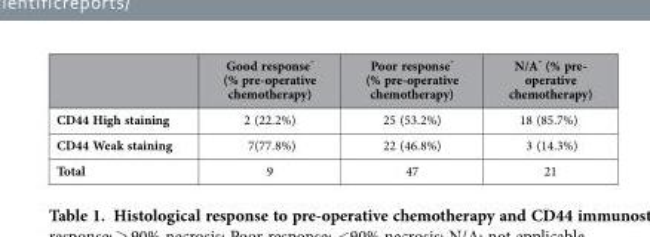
<table><thead><tr><td></td><td>Good response* (% pre-operative chemotherapy)</td><td>Poor response* (% pre-operative chemotherapy)</td><td>N/A* (% pre- operative chemotherapy)</td></tr></thead><tbody><tr><td>CD44 High staining</td><td>2 (22.2%)</td><td>25 (53.2%)</td><td>18 (85.7%)</td></tr><tr><td>CD44 Weak staining</td><td>7(77.8%)</td><td>22 (46.8%)</td><td>3 (14.3%)</td></tr><tr><td>Total</td><td>9</td><td>47</td><td>21</td></tr></tbody></table>